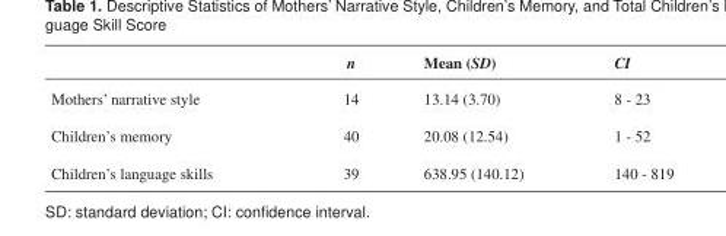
<table><thead><tr><td></td><td>n</td><td>Mean (SD)</td><td>CI</td></tr></thead><tbody><tr><td>Mothers’ narrative style</td><td>14</td><td>13.14 (3.70)</td><td>8 - 23</td></tr><tr><td>Children’s memory</td><td>40</td><td>20.08 (12.54)</td><td>1 - 52</td></tr><tr><td>Children’s language skills</td><td>39</td><td>638.95 (140.12)</td><td>140 - 819</td></tr></tbody></table>